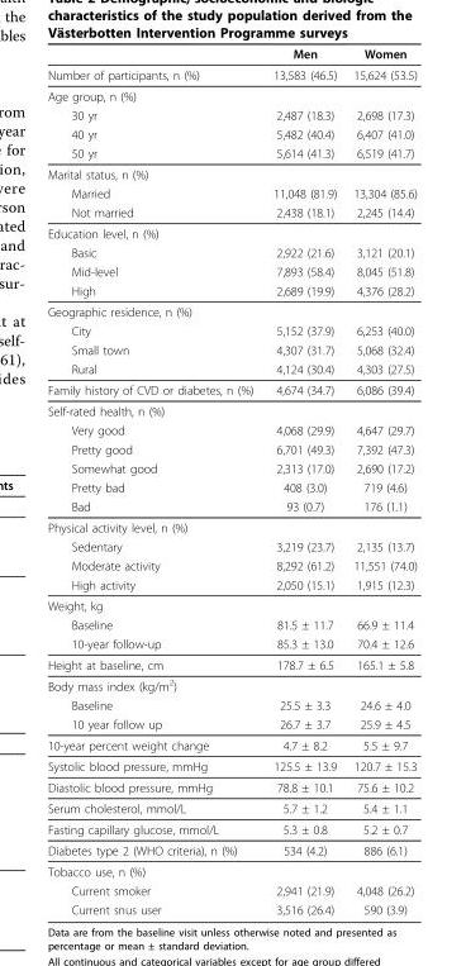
<table><thead><tr><td></td><td>Men</td><td>Women</td></tr></thead><tbody><tr><td>Number of participants, n (%)</td><td>13,583 (46.5)</td><td>15,624 (53.5)</td></tr><tr><td colspan="3">Age group, n (%)</td></tr><tr><td>30 yr</td><td>2,487 (18.3)</td><td>2,698 (17.3)</td></tr><tr><td>40 yr</td><td>5,482 (40.4)</td><td>6,407 (41.0)</td></tr><tr><td>50 yr</td><td>5,614 (41.3)</td><td>6,519 (41.7)</td></tr><tr><td colspan="3">Marital status, n (%)</td></tr><tr><td>Married</td><td>11,048 (81.9)</td><td>13,304 (85.6)</td></tr><tr><td>Not married</td><td>2,438 (18.1)</td><td>2,245 (14.4)</td></tr><tr><td colspan="3">Education level, n (%)</td></tr><tr><td>Basic</td><td>2,922 (21.6)</td><td>3,121 (20.1)</td></tr><tr><td>Mid-level</td><td>7,893 (58.4)</td><td>8,045 (51.8)</td></tr><tr><td>High</td><td>2,689 (19.9)</td><td>4,376 (28.2)</td></tr><tr><td colspan="3">Geographic residence, n (%)</td></tr><tr><td>City</td><td>5,152 (37.9)</td><td>6,253 (40.0)</td></tr><tr><td>Small town</td><td>4,307 (31.7)</td><td>5,068 (32.4)</td></tr><tr><td>Rural</td><td>4,124 (30.4)</td><td>4,303 (27.5)</td></tr><tr><td>Family history of CVD or diabetes, n (%)</td><td>4,674 (34.7)</td><td>6,086 (39.4)</td></tr><tr><td colspan="3">Self-rated health, n (%)</td></tr><tr><td>Very good</td><td>4,068 (29.9)</td><td>4,647 (29.7)</td></tr><tr><td>Pretty good</td><td>6,701 (49.3)</td><td>7,392 (47.3)</td></tr><tr><td>Somewhat good</td><td>2,313 (17.0)</td><td>2,690 (17.2)</td></tr><tr><td>Pretty bad</td><td>408 (3.0)</td><td>719 (4.6)</td></tr><tr><td>Bad</td><td>93 (0.7)</td><td>176 (1.1)</td></tr><tr><td colspan="3">Physical activity level, n (%)</td></tr><tr><td>Sedentary</td><td>3,219 (23.7)</td><td>2,135 (13.7)</td></tr><tr><td>Moderate activity</td><td>8,292 (61.2)</td><td>11,551 (74.0)</td></tr><tr><td>High activity</td><td>2,050 (15.1)</td><td>1,915 (12.3)</td></tr><tr><td colspan="3">Weight, kg</td></tr><tr><td>Baseline</td><td>81.5 ± 11.7</td><td>66.9 ± 11.4</td></tr><tr><td>10-year follow-up</td><td>85.3 ± 13.0</td><td>70.4 ± 12.6</td></tr><tr><td>Height at baseline, cm</td><td>178.7 ± 6.5</td><td>165.1 ± 5.8</td></tr><tr><td colspan="3">Body mass index (kg/m<sup>2</sup>)</td></tr><tr><td>Baseline</td><td>25.5 ± 3.3</td><td>24.6 ± 4.0</td></tr><tr><td>10 year follow up</td><td>26.7 ± 3.7</td><td>25.9 ± 4.5</td></tr><tr><td>10-year percent weight change</td><td>4.7 ± 8.2</td><td>5.5 ± 9.7</td></tr><tr><td>Systolic blood pressure, mmHg</td><td>125.5 ± 13.9</td><td>120.7 ± 15.3</td></tr><tr><td>Diastolic blood pressure, mmHg</td><td>78.8 ± 10.1</td><td>75.6 ± 10.2</td></tr><tr><td>Serum cholesterol, mmol/L</td><td>5.7 ± 1.2</td><td>5.4 ± 1.1</td></tr><tr><td>Fasting capillary glucose, mmol/L</td><td>5.3 ± 0.8</td><td>5.2 ± 0.7</td></tr><tr><td>Diabetes type 2 (WHO criteria), n (%)</td><td>534 (4.2)</td><td>886 (6.1)</td></tr><tr><td colspan="3">Tobacco use, n (%)</td></tr><tr><td>Current smoker</td><td>2,941 (21.9)</td><td>4,048 (26.2)</td></tr><tr><td>Current snus user</td><td>3,516 (26.4)</td><td>590 (3.9)</td></tr></tbody></table>